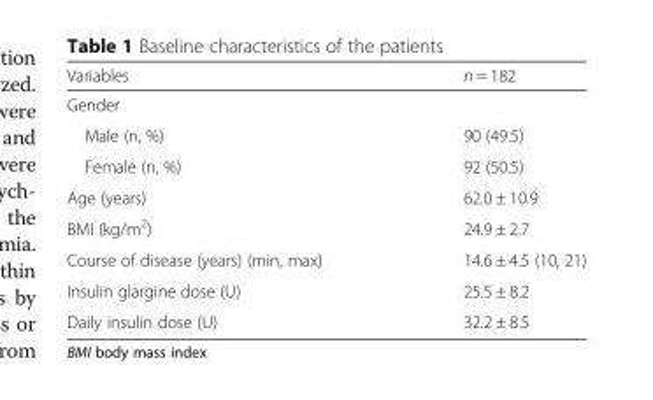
<table><thead><tr><td>Variables</td><td>n = 182</td></tr></thead><tbody><tr><td colspan="2">Gender</td></tr><tr><td>Male (n, %)</td><td>90 (49.5)</td></tr><tr><td>Female (n, %)</td><td>92 (50.5)</td></tr><tr><td>Age (years)</td><td>62.0 ± 10.9</td></tr><tr><td>BMI (kg/m<sup>2</sup>)</td><td>24.9 ± 2.7</td></tr><tr><td>Course of disease (years) (min, max)</td><td>14.6 ± 4.5 (10, 21)</td></tr><tr><td>Insulin glargine dose (U)</td><td>25.5 ± 8.2</td></tr><tr><td>Daily insulin dose (U)</td><td>32.2 ± 8.5</td></tr></tbody></table>